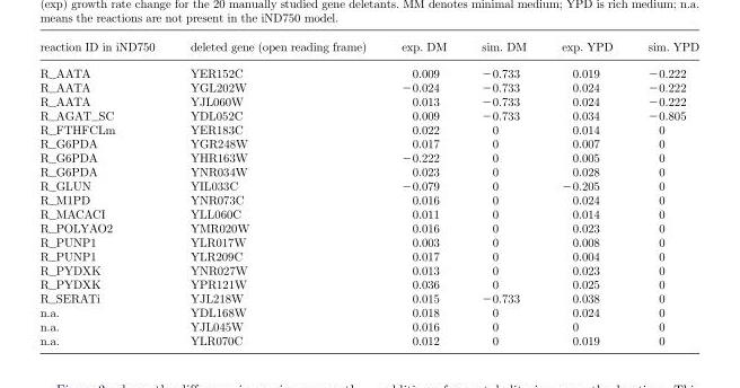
<table><thead><tr><td>reaction ID in iND750</td><td>deleted gene (open reading frame)</td><td>exp. DM</td><td>sim. DM</td><td>exp. YPD</td><td>sim. YPD</td></tr></thead><tbody><tr><td>R_AATA</td><td>YER152C</td><td>0.009</td><td>−0.733</td><td>0.019</td><td>−0.222</td></tr><tr><td>R_AATA</td><td>YGL202W</td><td>−0.024</td><td>−0.733</td><td>0.024</td><td>−0.222</td></tr><tr><td>R_AATA</td><td>YJL060W</td><td>0.013</td><td>−0.733</td><td>0.024</td><td>−0.222</td></tr><tr><td>R_AGAT_SC</td><td>YDL052C</td><td>0.009</td><td>−0.733</td><td>0.034</td><td>−0.805</td></tr><tr><td>R_FTHFCLm</td><td>YER183C</td><td>0.022</td><td>0</td><td>0.014</td><td>0</td></tr><tr><td>R_G6PDA</td><td>YGR248W</td><td>0.017</td><td>0</td><td>0.007</td><td>0</td></tr><tr><td>R_G6PDA</td><td>YHR163W</td><td>−0.222</td><td>0</td><td>0.005</td><td>0</td></tr><tr><td>R_G6PDA</td><td>YNR034W</td><td>0.023</td><td>0</td><td>0.028</td><td>0</td></tr><tr><td>R_GLUN</td><td>YIL033C</td><td>−0.079</td><td>0</td><td>−0.205</td><td>0</td></tr><tr><td>R_M1PD</td><td>YNR073C</td><td>0.016</td><td>0</td><td>0.024</td><td>0</td></tr><tr><td>R_MACACI</td><td>YLL060C</td><td>0.011</td><td>0</td><td>0.014</td><td>0</td></tr><tr><td>R_POLYAO2</td><td>YMR020W</td><td>0.016</td><td>0</td><td>0.023</td><td>0</td></tr><tr><td>R_PUNP1</td><td>YLR017W</td><td>0.003</td><td>0</td><td>0.008</td><td>0</td></tr><tr><td>R_PUNP1</td><td>YLR209C</td><td>0.017</td><td>0</td><td>0.004</td><td>0</td></tr><tr><td>R_PYDXK</td><td>YNR027W</td><td>0.013</td><td>0</td><td>0.023</td><td>0</td></tr><tr><td>R_PYDXK</td><td>YPR121W</td><td>0.036</td><td>0</td><td>0.025</td><td>0</td></tr><tr><td>R_SERATi</td><td>YJL218W</td><td>0.015</td><td>−0.733</td><td>0.038</td><td>0</td></tr><tr><td>n.a.</td><td>YDL168W</td><td>0.018</td><td>0</td><td>0.024</td><td>0</td></tr><tr><td>n.a.</td><td>YJL045W</td><td>0.016</td><td>0</td><td>0</td><td>0</td></tr><tr><td>n.a.</td><td>YLR070C</td><td>0.012</td><td>0</td><td>0.019</td><td>0</td></tr></tbody></table>